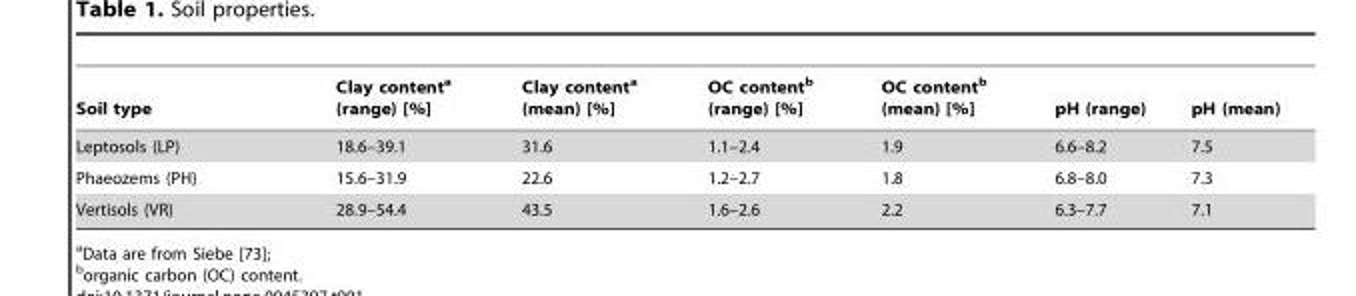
<table><thead><tr><td>Soil type</td><td>Clay content<sup>a</sup> (range) [%]</td><td>Clay content<sup>a</sup> (mean) [%]</td><td>OC content<sup>b</sup> (range) [%]</td><td>OC content<sup>b</sup> (mean) [%]</td><td>pH (range)</td><td>pH (mean)</td></tr></thead><tbody><tr><td>Leptosols (LP)</td><td>18.6–39.1</td><td>31.6</td><td>1.1–2.4</td><td>1.9</td><td>6.6–8.2</td><td>7.5</td></tr><tr><td>Phaeozems (PH)</td><td>15.6–31.9</td><td>22.6</td><td>1.2–2.7</td><td>1.8</td><td>6.8–8.0</td><td>7.3</td></tr><tr><td>Vertisols (VR)</td><td>28.9–54.4</td><td>43.5</td><td>1.6–2.6</td><td>2.2</td><td>6.3–7.7</td><td>7.1</td></tr></tbody></table>